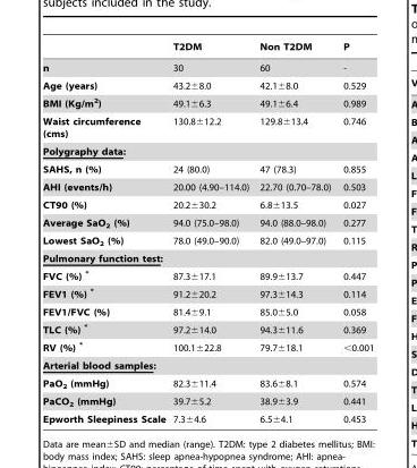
<table><thead><tr><td></td><td>T2DM</td><td>Non T2DM</td><td>P</td></tr></thead><tbody><tr><td>n</td><td>30</td><td>60</td><td>-</td></tr><tr><td>Age (years)</td><td>43.2±8.0</td><td>42.1±8.0</td><td>0.529</td></tr><tr><td>BMI (Kg/m<sup>2</sup>)</td><td>49.1±6.3</td><td>49.1±6.4</td><td>0.989</td></tr><tr><td>Waist circumference (cms)</td><td>130.8±12.2</td><td>129.8±13.4</td><td>0.746</td></tr><tr><td colspan="4">Polygraphy data:</td></tr><tr><td>SAHS, n (%)</td><td>24 (80.0)</td><td>47 (78.3)</td><td>0.855</td></tr><tr><td>AHI (events/h)</td><td>20.00 (4.90–114.0)</td><td>22.70 (0.70–78.0)</td><td>0.503</td></tr><tr><td>CT90 (%)</td><td>20.2±30.2</td><td>6.8±13.5</td><td>0.027</td></tr><tr><td>Average SaO<sub>2</sub> (%)</td><td>94.0 (75.0–98.0)</td><td>94.0 (88.0–98.0)</td><td>0.277</td></tr><tr><td>Lowest SaO<sub>2</sub> (%)</td><td>78.0 (49.0–90.0)</td><td>82.0 (49.0–97.0)</td><td>0.115</td></tr><tr><td colspan="4">Pulmonary function test:</td></tr><tr><td>FVC (%) *</td><td>87.3±17.1</td><td>89.9±13.7</td><td>0.447</td></tr><tr><td>FEV1 (%) *</td><td>91.2±20.2</td><td>97.3±14.3</td><td>0.114</td></tr><tr><td>FEV1/FVC (%)</td><td>81.4±9.1</td><td>85.0±5.0</td><td>0.058</td></tr><tr><td>TLC (%) *</td><td>97.2±14.0</td><td>94.3±11.6</td><td>0.369</td></tr><tr><td>RV (%) *</td><td>100.1±22.8</td><td>79.7±18.1</td><td>&lt;0.001</td></tr><tr><td colspan="4">Arterial blood samples:</td></tr><tr><td>PaO<sub>2</sub> (mmHg)</td><td>82.3±11.4</td><td>83.6±8.1</td><td>0.574</td></tr><tr><td>PaCO<sub>2</sub> (mmHg)</td><td>39.7±5.2</td><td>38.9±3.9</td><td>0.441</td></tr><tr><td>Epworth Sleepiness Scale</td><td>7.3±4.6</td><td>6.5±4.1</td><td>0.453</td></tr></tbody></table>